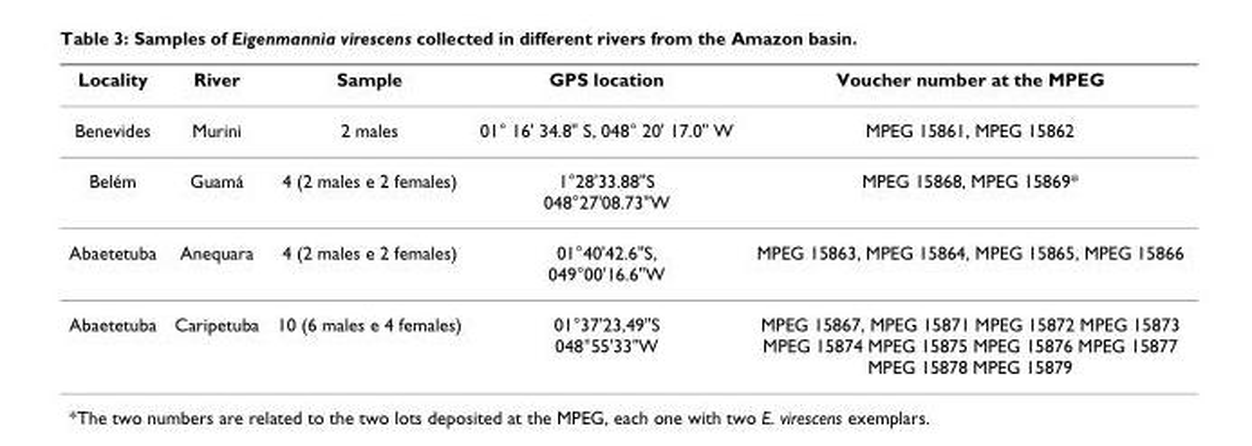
<table><thead><tr><td>Locality</td><td>River</td><td>Sample</td><td>GPS location</td><td>Voucher number at the MPEG</td></tr></thead><tbody><tr><td>Benevides</td><td>Murini</td><td>2 males</td><td>01° 16&#x27; 34.8&quot; S, 048° 20&#x27; 17.0&quot; W</td><td>MPEG 15861, MPEG 15862</td></tr><tr><td>Belém</td><td>Guamá</td><td>4 (2 males e 2 females)</td><td>1°28&#x27;33.88&quot;S 048°27&#x27;08.73&quot;W</td><td>MPEG 15868, MPEG 15869*</td></tr><tr><td>Abaetetuba</td><td>Anequara</td><td>4 (2 males e 2 females)</td><td>01°40&#x27;42.6&quot;S, 049°00&#x27;16.6&quot;W</td><td>MPEG 15863, MPEG 15864, MPEG 15865, MPEG 15866</td></tr><tr><td>Abaetetuba</td><td>Caripetuba</td><td>10 (6 males e 4 females)</td><td>01°37&#x27;23,49&quot;S 048°55&#x27;33&quot;W</td><td>MPEG 15867, MPEG 15871 MPEG 15872 MPEG 15873 MPEG 15874 MPEG 15875 MPEG 15876 MPEG 15877 MPEG 15878 MPEG 15879</td></tr></tbody></table>